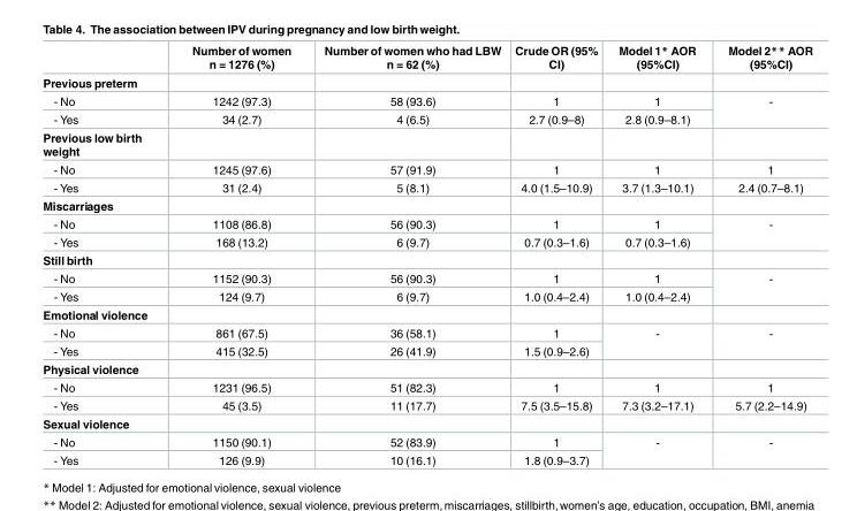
<table><thead><tr><td></td><td>Number of women n = 1276 (%)</td><td>Number of women who had LBW n = 62 (%)</td><td>Crude OR (95% CI)</td><td>Model 1* AOR (95%CI)</td><td>Model 2** AOR (95%CI)</td></tr></thead><tbody><tr><td colspan="6">Previous preterm</td></tr><tr><td>- No</td><td>1242 (97.3)</td><td>58 (93.6)</td><td>1</td><td>1</td><td rowspan="2">-</td></tr><tr><td>- Yes</td><td>34 (2.7)</td><td>4 (6.5)</td><td>2.7 (0.9–8)</td><td>2.8 (0.9–8.1)</td></tr><tr><td colspan="6">Previous low birth weight</td></tr><tr><td>- No</td><td>1245 (97.6)</td><td>57 (91.9)</td><td>1</td><td>1</td><td>1</td></tr><tr><td>- Yes</td><td>31 (2.4)</td><td>5 (8.1)</td><td>4.0 (1.5–10.9)</td><td>3.7 (1.3–10.1)</td><td>2.4 (0.7–8.1)</td></tr><tr><td colspan="6">Miscarriages</td></tr><tr><td>- No</td><td>1108 (86.8)</td><td>56 (90.3)</td><td>1</td><td>1</td><td rowspan="2">-</td></tr><tr><td>- Yes</td><td>168 (13.2)</td><td>6 (9.7)</td><td>0.7 (0.3–1.6)</td><td>0.7 (0.3–1.6)</td></tr><tr><td colspan="6">Still birth</td></tr><tr><td>- No</td><td>1152 (90.3)</td><td>56 (90.3)</td><td>1</td><td>1</td><td rowspan="2">-</td></tr><tr><td>- Yes</td><td>124 (9.7)</td><td>6 (9.7)</td><td>1.0 (0.4–2.4)</td><td>1.0 (0.4–2.4)</td></tr><tr><td colspan="6">Emotional violence</td></tr><tr><td>- No</td><td>861 (67.5)</td><td>36 (58.1)</td><td>1</td><td rowspan="2">-</td><td rowspan="2">-</td></tr><tr><td>- Yes</td><td>415 (32.5)</td><td>26 (41.9)</td><td>1.5 (0.9–2.6)</td></tr><tr><td colspan="6">Physical violence</td></tr><tr><td>- No</td><td>1231 (96.5)</td><td>51 (82.3)</td><td>1</td><td>1</td><td>1</td></tr><tr><td>- Yes</td><td>45 (3.5)</td><td>11 (17.7)</td><td>7.5 (3.5–15.8)</td><td>7.3 (3.2–17.1)</td><td>5.7 (2.2–14.9)</td></tr><tr><td colspan="6">Sexual violence</td></tr><tr><td>- No</td><td>1150 (90.1)</td><td>52 (83.9)</td><td>1</td><td rowspan="2">-</td><td rowspan="2">-</td></tr><tr><td>- Yes</td><td>126 (9.9)</td><td>10 (16.1)</td><td>1.8 (0.9–3.7)</td></tr></tbody></table>